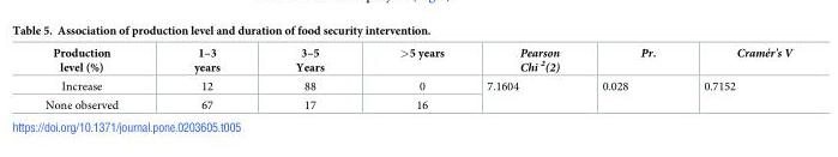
<table><thead><tr><td>Production level (%)</td><td>1–3 years</td><td>3–5 Years</td><td>&gt;5 years</td><td>Pearson Chi <sup>2</sup>(2)</td><td>Pr.</td><td>Cramér&#x27;s V</td></tr></thead><tbody><tr><td>Increase</td><td>12</td><td>88</td><td>0</td><td rowspan="2">7.1604</td><td rowspan="2">0.028</td><td rowspan="2">0.7152</td></tr><tr><td>None observed</td><td>67</td><td>17</td><td>16</td></tr></tbody></table>